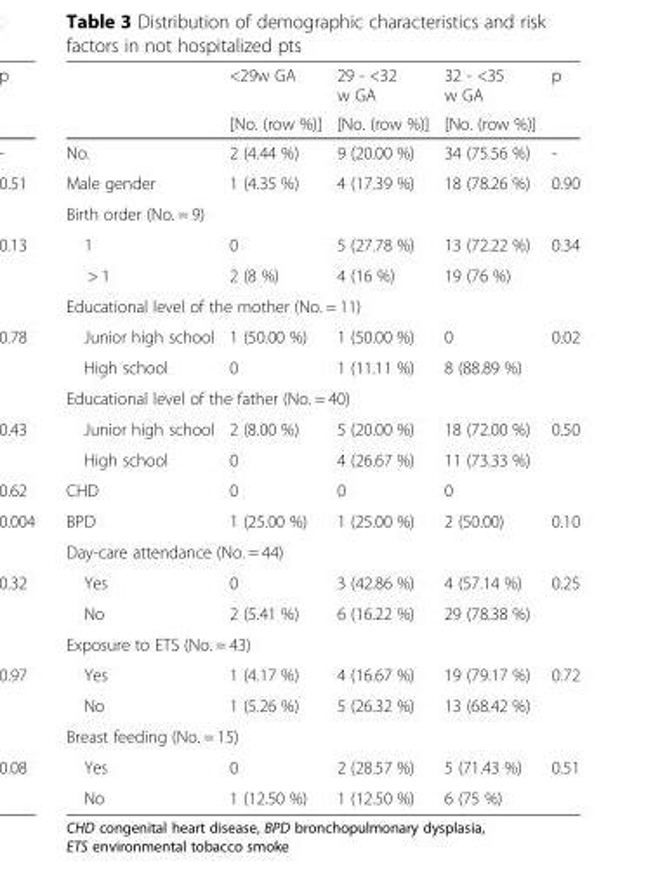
<table><thead><tr><td rowspan="2"></td><td rowspan="2">&lt;29w GA [No. (row %)]</td><td rowspan="2">29 - &lt;32 w GA [No. (row %)]</td><td rowspan="2">32 - &lt;35 w GA [No. (row %)]</td><td rowspan="2">p</td></tr><tr></tr></thead><tbody><tr><td>No.</td><td>2 (4.44 %)</td><td>9 (20.00 %)</td><td>34 (75.56 %)</td><td>-</td></tr><tr><td>Male gender</td><td>1 (4.35 %)</td><td>4 (17.39 %)</td><td>18 (78.26 %)</td><td>0.90</td></tr><tr><td colspan="5">Birth order (No. = 9)</td></tr><tr><td>1</td><td>0</td><td>5 (27.78 %)</td><td>13 (72.22 %)</td><td>0.34</td></tr><tr><td>&gt; 1</td><td>2 (8 %)</td><td>4 (16 %)</td><td>19 (76 %)</td><td></td></tr><tr><td colspan="5">Educational level of the mother (No. = 11)</td></tr><tr><td>Junior high school</td><td>1 (50.00 %)</td><td>1 (50.00 %)</td><td>0</td><td>0.02</td></tr><tr><td>High school</td><td>0</td><td>1 (11.11 %)</td><td>8 (88.89 %)</td><td></td></tr><tr><td colspan="5">Educational level of the father (No. = 40)</td></tr><tr><td>Junior high school</td><td>2 (8.00 %)</td><td>5 (20.00 %)</td><td>18 (72.00 %)</td><td>0.50</td></tr><tr><td>High school</td><td>0</td><td>4 (26.67 %)</td><td>11 (73.33 %)</td><td></td></tr><tr><td>CHD</td><td>0</td><td>0</td><td>0</td><td></td></tr><tr><td>BPD</td><td>1 (25.00 %)</td><td>1 (25.00 %)</td><td>2 (50.00)</td><td>0.10</td></tr><tr><td colspan="5">Day-care attendance (No. = 44)</td></tr><tr><td>Yes</td><td>0</td><td>3 (42.86 %)</td><td>4 (57.14 %)</td><td>0.25</td></tr><tr><td>No</td><td>2 (5.41 %)</td><td>6 (16.22 %)</td><td>29 (78.38 %)</td><td></td></tr><tr><td colspan="5">Exposure to ETS (No. = 43)</td></tr><tr><td>Yes</td><td>1 (4.17 %)</td><td>4 (16.67 %)</td><td>19 (79.17 %)</td><td>0.72</td></tr><tr><td>No</td><td>1 (5.26 %)</td><td>5 (26.32 %)</td><td>13 (68.42 %)</td><td></td></tr><tr><td colspan="5">Breast feeding (No. = 15)</td></tr><tr><td>Yes</td><td>0</td><td>2 (28.57 %)</td><td>5 (71.43 %)</td><td>0.51</td></tr><tr><td>No</td><td>1 (12.50 %)</td><td>1 (12.50 %)</td><td>6 (75 %)</td><td></td></tr></tbody></table>